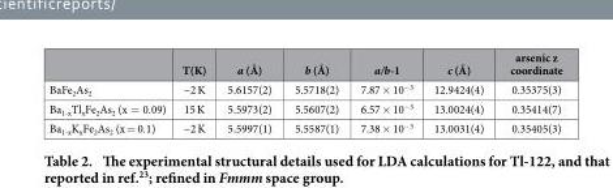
<table><thead><tr><td></td><td>T(K)</td><td>a (Å)</td><td>b (Å)</td><td>a/b-1</td><td>c (Å)</td><td>arsenic z coordinate</td></tr></thead><tbody><tr><td>BaFe<sub>2</sub>As<sub>2</sub></td><td>~2 K</td><td>5.6157(2)</td><td>5.5718(2)</td><td>7.87 × 10<sup>−3</sup></td><td>12.9424(4)</td><td>0.35375(3)</td></tr><tr><td>Ba<sub>1-x</sub>Tl<sub>x</sub>Fe<sub>2</sub>As<sub>2</sub> (x = 0.09)</td><td>15 K</td><td>5.5973(2)</td><td>5.5607(2)</td><td>6.57 × 10<sup>−3</sup></td><td>13.0024(4)</td><td>0.35414(7)</td></tr><tr><td>Ba<sub>1-x</sub>K<sub>x</sub>Fe<sub>2</sub>As<sub>2</sub> (x = 0.1)</td><td>~2 K</td><td>5.5997(1)</td><td>5.5587(1)</td><td>7.38 × 10<sup>−3</sup></td><td>13.0031(4)</td><td>0.35405(3)</td></tr></tbody></table>